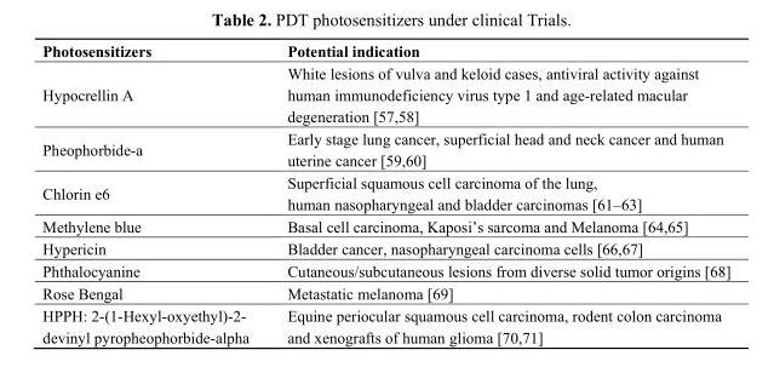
<table><thead><tr><td>Photosensitizers</td><td>Potential indication</td></tr></thead><tbody><tr><td>Hypocrellin A</td><td>White lesions of vulva and keloid cases, antiviral activity against human immunodeficiency virus type 1 and age-related macular degeneration [57,58]</td></tr><tr><td>Pheophorbide-a</td><td>Early stage lung cancer, superficial head and neck cancer and human uterine cancer [59,60]</td></tr><tr><td>Chlorin e6</td><td>Superficial squamous cell carcinoma of the lung, human nasopharyngeal and bladder carcinomas [61–63]</td></tr><tr><td>Methylene blue</td><td>Basal cell carcinoma, Kaposi’s sarcoma and Melanoma [64,65]</td></tr><tr><td>Hypericin</td><td>Bladder cancer, nasopharyngeal carcinoma cells [66,67]</td></tr><tr><td>Phthalocyanine</td><td>Cutaneous/subcutaneous lesions from diverse solid tumor origins [68]</td></tr><tr><td>Rose Bengal</td><td>Metastatic melanoma [69]</td></tr><tr><td>HPPH: 2-(1-Hexyl-oxyethyl)-2- devinyl pyropheophorbide-alpha</td><td>Equine periocular squamous cell carcinoma, rodent colon carcinoma and xenografts of human glioma [70,71]</td></tr></tbody></table>